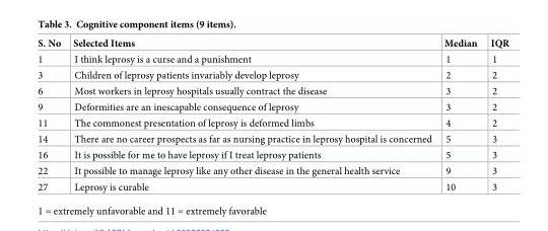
<table><thead><tr><td>S. No</td><td>Selected Items</td><td>Median</td><td>IQR</td></tr></thead><tbody><tr><td>1</td><td>I think leprosy is a curse and a punishment</td><td>1</td><td>1</td></tr><tr><td>3</td><td>Children of leprosy patients invariably develop leprosy</td><td>2</td><td>2</td></tr><tr><td>6</td><td>Most workers in leprosy hospitals usually contract the disease</td><td>3</td><td>2</td></tr><tr><td>9</td><td>Deformities are an inescapable consequence of leprosy</td><td>3</td><td>2</td></tr><tr><td>11</td><td>The commonest presentation of leprosy is deformed limbs</td><td>4</td><td>2</td></tr><tr><td>14</td><td>There are no career prospects as far as nursing practice in leprosy hospital is concerned</td><td>5</td><td>3</td></tr><tr><td>16</td><td>It is possible for me to have leprosy if I treat leprosy patients</td><td>5</td><td>3</td></tr><tr><td>22</td><td>It possible to manage leprosy like any other disease in the general health service</td><td>9</td><td>3</td></tr><tr><td>27</td><td>Leprosy is curable</td><td>10</td><td>3</td></tr></tbody></table>